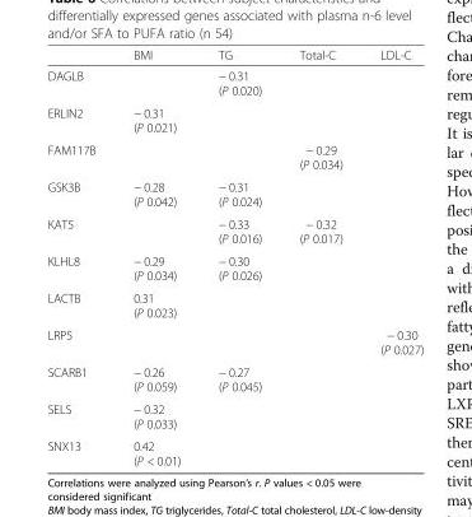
<table><thead><tr><td></td><td>BMI</td><td>TG</td><td>Total-C</td><td>LDL-C</td></tr></thead><tbody><tr><td>DAGLB</td><td></td><td>− 0.31 (P 0.020)</td><td></td><td></td></tr><tr><td>ERLIN2</td><td>− 0.31 (P 0.021)</td><td></td><td></td><td></td></tr><tr><td>FAM117B</td><td></td><td></td><td>− 0.29 (P 0.034)</td><td></td></tr><tr><td>GSK3B</td><td>− 0.28 (P 0.042)</td><td>− 0.31 (P 0.024)</td><td></td><td></td></tr><tr><td>KAT5</td><td></td><td>− 0.33 (P 0.016)</td><td>− 0.32 (P 0.017)</td><td></td></tr><tr><td>KLHL8</td><td>− 0.29 (P 0.034)</td><td>− 0.30 (P 0.026)</td><td></td><td></td></tr><tr><td>LACTB</td><td>0.31 (P 0.023)</td><td></td><td></td><td></td></tr><tr><td>LRP5</td><td></td><td></td><td></td><td>− 0.30 (P 0.027)</td></tr><tr><td>SCARB1</td><td>− 0.26 (P 0.059)</td><td>− 0.27 (P 0.045)</td><td></td><td></td></tr><tr><td>SELS</td><td>− 0.32 (P 0.033)</td><td></td><td></td><td></td></tr><tr><td>SNX13</td><td>0.42 (P &lt; 0.01)</td><td></td><td></td><td></td></tr></tbody></table>